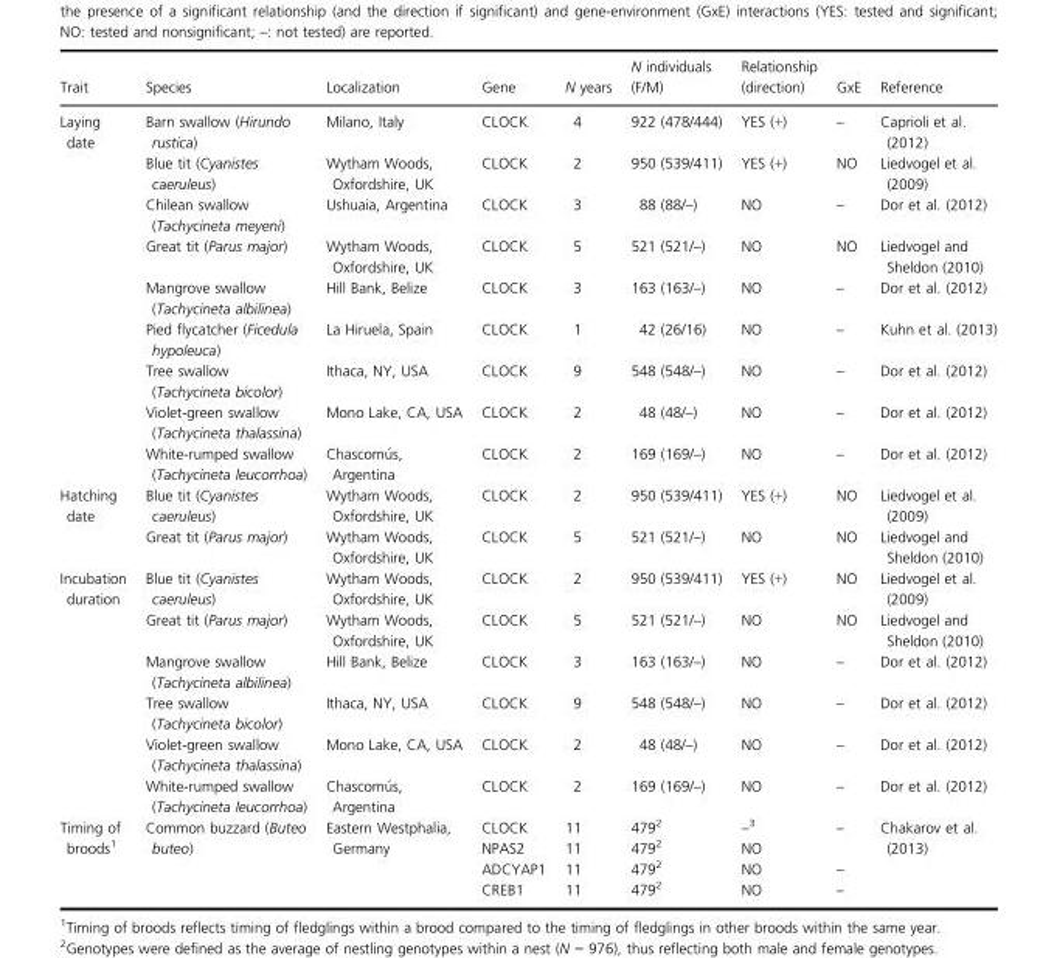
<table><thead><tr><td>Trait</td><td>Species</td><td>Localization</td><td>Gene</td><td>N years</td><td>N individuals (F/M)</td><td>Relationship (direction)</td><td>GxE</td><td>Reference</td></tr></thead><tbody><tr><td rowspan="9">Laying date</td><td>Barn swallow (Hirundo rustica)</td><td>Milano, Italy</td><td>CLOCK</td><td>4</td><td>922 (478/444)</td><td>YES (+)</td><td>–</td><td>Caprioli et al. (2012)</td></tr><tr><td>Blue tit (Cyanistes caeruleus)</td><td>Wytham Woods, Oxfordshire, UK</td><td>CLOCK</td><td>2</td><td>950 (539/411)</td><td>YES (+)</td><td>NO</td><td>Liedvogel et al. (2009)</td></tr><tr><td>Chilean swallow (Tachycineta meyeni)</td><td>Ushuaia, Argentina</td><td>CLOCK</td><td>3</td><td>88 (88/–)</td><td>NO</td><td>–</td><td>Dor et al. (2012)</td></tr><tr><td>Great tit (Parus major)</td><td>Wytham Woods, Oxfordshire, UK</td><td>CLOCK</td><td>5</td><td>521 (521/–)</td><td>NO</td><td>NO</td><td>Liedvogel and Sheldon (2010)</td></tr><tr><td>Mangrove swallow (Tachycineta albilinea)</td><td>Hill Bank, Belize</td><td>CLOCK</td><td>3</td><td>163 (163/–)</td><td>NO</td><td>–</td><td>Dor et al. (2012)</td></tr><tr><td>Pied flycatcher (Ficedula hypoleuca)</td><td>La Hiruela, Spain</td><td>CLOCK</td><td>1</td><td>42 (26/16)</td><td>NO</td><td>–</td><td>Kuhn et al. (2013)</td></tr><tr><td>Tree swallow (Tachycineta bicolor)</td><td>Ithaca, NY, USA</td><td>CLOCK</td><td>9</td><td>548 (548/–)</td><td>NO</td><td>–</td><td>Dor et al. (2012)</td></tr><tr><td>Violet-green swallow (Tachycineta thalassina)</td><td>Mono Lake, CA, USA</td><td>CLOCK</td><td>2</td><td>48 (48/–)</td><td>NO</td><td>–</td><td>Dor et al. (2012)</td></tr><tr><td>White-rumped swallow (Tachycineta leucorrhoa)</td><td>Chascom�us, Argentina</td><td>CLOCK</td><td>2</td><td>169 (169/–)</td><td>NO</td><td>–</td><td>Dor et al. (2012)</td></tr><tr><td rowspan="2">Hatching date</td><td>Blue tit (Cyanistes caeruleus)</td><td>Wytham Woods, Oxfordshire, UK</td><td>CLOCK</td><td>2</td><td>950 (539/411)</td><td>YES (+)</td><td>NO</td><td>Liedvogel et al. (2009)</td></tr><tr><td>Great tit (Parus major)</td><td>Wytham Woods, Oxfordshire, UK</td><td>CLOCK</td><td>5</td><td>521 (521/–)</td><td>NO</td><td>NO</td><td>Liedvogel and Sheldon (2010)</td></tr><tr><td rowspan="6">Incubation duration</td><td>Blue tit (Cyanistes caeruleus)</td><td>Wytham Woods, Oxfordshire, UK</td><td>CLOCK</td><td>2</td><td>950 (539/411)</td><td>YES (+)</td><td>NO</td><td>Liedvogel et al. (2009)</td></tr><tr><td>Great tit (Parus major)</td><td>Wytham Woods, Oxfordshire, UK</td><td>CLOCK</td><td>5</td><td>521 (521/–)</td><td>NO</td><td>NO</td><td>Liedvogel and Sheldon (2010)</td></tr><tr><td>Mangrove swallow (Tachycineta albilinea)</td><td>Hill Bank, Belize</td><td>CLOCK</td><td>3</td><td>163 (163/–)</td><td>NO</td><td>–</td><td>Dor et al. (2012)</td></tr><tr><td>Tree swallow (Tachycineta bicolor)</td><td>Ithaca, NY, USA</td><td>CLOCK</td><td>9</td><td>548 (548/–)</td><td>NO</td><td>–</td><td>Dor et al. (2012)</td></tr><tr><td>Violet-green swallow (Tachycineta thalassina)</td><td>Mono Lake, CA, USA</td><td>CLOCK</td><td>2</td><td>48 (48/–)</td><td>NO</td><td>–</td><td>Dor et al. (2012)</td></tr><tr><td>White-rumped swallow (Tachycineta leucorrhoa)</td><td>Chascom�us, Argentina</td><td>CLOCK</td><td>2</td><td>169 (169/–)</td><td>NO</td><td>–</td><td>Dor et al. (2012)</td></tr><tr><td rowspan="4">Timing of broods1</td><td rowspan="4">Common buzzard (Buteo buteo)</td><td rowspan="4">Eastern Westphalia, Germany</td><td>CLOCK</td><td>11</td><td>4792</td><td>–3</td><td>–</td><td rowspan="4">Chakarov et al. (2013)</td></tr><tr><td>NPAS2</td><td>11</td><td>4792</td><td>NO</td><td></td></tr><tr><td>ADCYAP1</td><td>11</td><td>4792</td><td>NO</td><td>–</td></tr><tr><td>CREB1</td><td>11</td><td>4792</td><td>NO</td><td>–</td></tr></tbody></table>